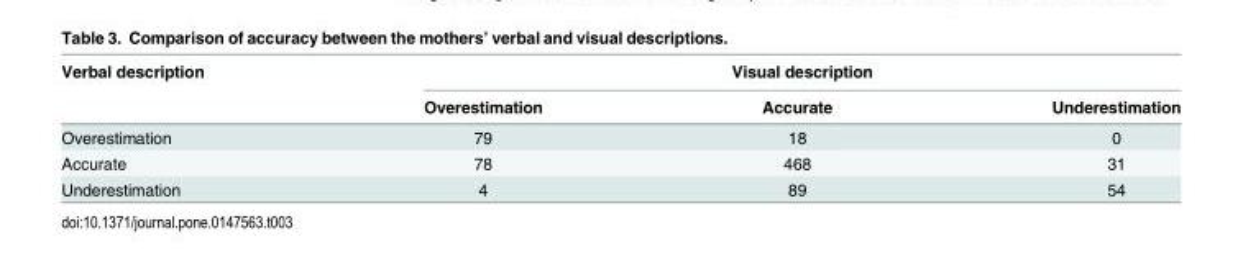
<table><thead><tr><td rowspan="2">Verbal description</td><td colspan="3">Visual description</td></tr><tr><td>Overestimation</td><td>Accurate</td><td>Underestimation</td></tr></thead><tbody><tr><td>Overestimation</td><td>79</td><td>18</td><td>0</td></tr><tr><td>Accurate</td><td>78</td><td>468</td><td>31</td></tr><tr><td>Underestimation</td><td>4</td><td>89</td><td>54</td></tr></tbody></table>